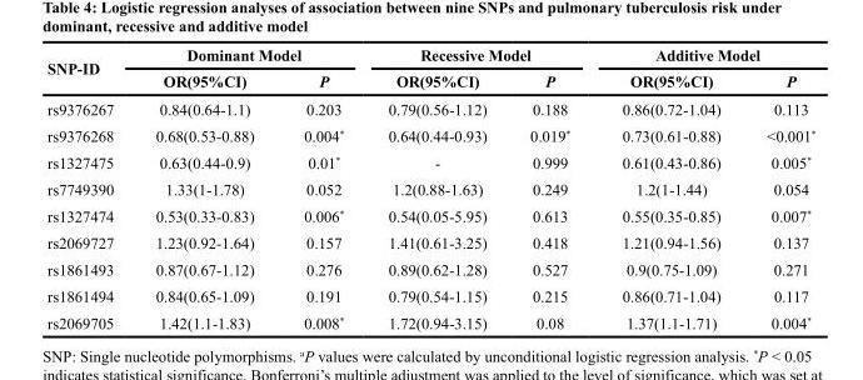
<table><thead><tr><td rowspan="2">SNP-ID</td><td colspan="2">Dominant Model</td><td colspan="2">Recessive Model</td><td colspan="2">Additive Model</td></tr><tr><td>OR(95%CI)</td><td>P</td><td>OR(95%CI)</td><td>P</td><td>OR(95%CI)</td><td>P</td></tr></thead><tbody><tr><td>rs9376267</td><td>0.84(0.64-1.1)</td><td>0.203</td><td>0.79(0.56-1.12)</td><td>0.188</td><td>0.86(0.72-1.04)</td><td>0.113</td></tr><tr><td>rs9376268</td><td>0.68(0.53-0.88)</td><td>0.004*</td><td>0.64(0.44-0.93)</td><td>0.019*</td><td>0.73(0.61-0.88)</td><td>&lt;0.001*</td></tr><tr><td>rs1327475</td><td>0.63(0.44-0.9)</td><td>0.01*</td><td>-</td><td>0.999</td><td>0.61(0.43-0.86)</td><td>0.005*</td></tr><tr><td>rs7749390</td><td>1.33(1-1.78)</td><td>0.052</td><td>1.2(0.88-1.63)</td><td>0.249</td><td>1.2(1-1.44)</td><td>0.054</td></tr><tr><td>rs1327474</td><td>0.53(0.33-0.83)</td><td>0.006*</td><td>0.54(0.05-5.95)</td><td>0.613</td><td>0.55(0.35-0.85)</td><td>0.007*</td></tr><tr><td>rs2069727</td><td>1.23(0.92-1.64)</td><td>0.157</td><td>1.41(0.61-3.25)</td><td>0.418</td><td>1.21(0.94-1.56)</td><td>0.137</td></tr><tr><td>rs1861493</td><td>0.87(0.67-1.12)</td><td>0.276</td><td>0.89(0.62-1.28)</td><td>0.527</td><td>0.9(0.75-1.09)</td><td>0.271</td></tr><tr><td>rs1861494</td><td>0.84(0.65-1.09)</td><td>0.191</td><td>0.79(0.54-1.15)</td><td>0.215</td><td>0.86(0.71-1.04)</td><td>0.117</td></tr><tr><td>rs2069705</td><td>1.42(1.1-1.83)</td><td>0.008*</td><td>1.72(0.94-3.15)</td><td>0.08</td><td>1.37(1.1-1.71)</td><td>0.004*</td></tr></tbody></table>